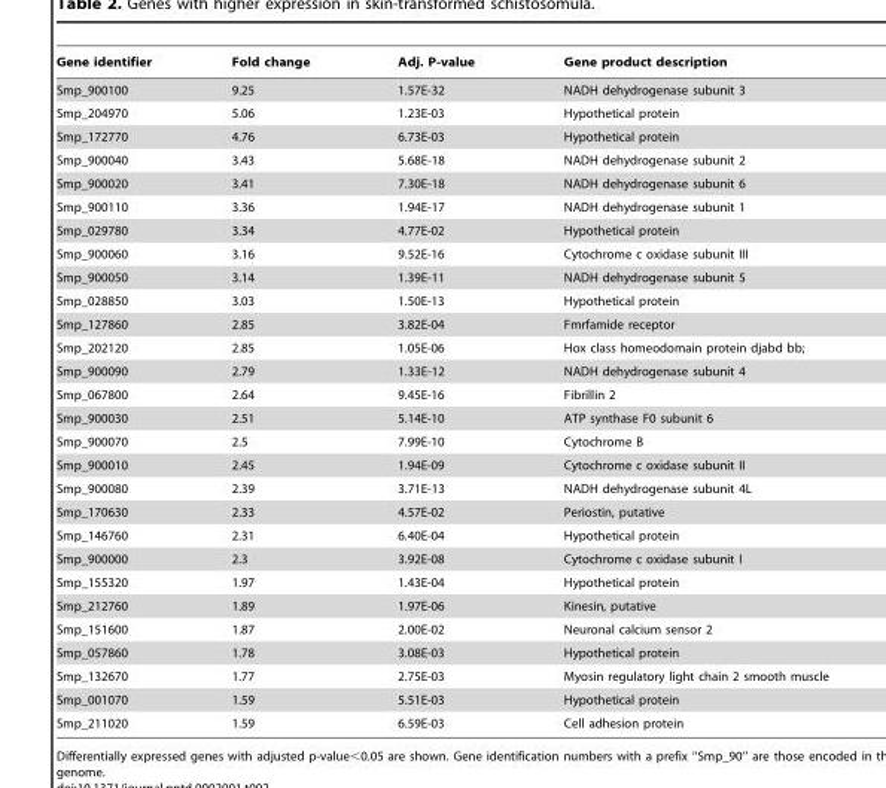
<table><thead><tr><td>Gene identifier</td><td>Fold change</td><td>Adj. P-value</td><td>Gene product description</td></tr></thead><tbody><tr><td>Smp_900100</td><td>9.25</td><td>1.57E-32</td><td>NADH dehydrogenase subunit 3</td></tr><tr><td>Smp_204970</td><td>5.06</td><td>1.23E-03</td><td>Hypothetical protein</td></tr><tr><td>Smp_172770</td><td>4.76</td><td>6.73E-03</td><td>Hypothetical protein</td></tr><tr><td>Smp_900040</td><td>3.43</td><td>5.68E-18</td><td>NADH dehydrogenase subunit 2</td></tr><tr><td>Smp_900020</td><td>3.41</td><td>7.30E-18</td><td>NADH dehydrogenase subunit 6</td></tr><tr><td>Smp_900110</td><td>3.36</td><td>1.94E-17</td><td>NADH dehydrogenase subunit 1</td></tr><tr><td>Smp_029780</td><td>3.34</td><td>4.77E-02</td><td>Hypothetical protein</td></tr><tr><td>Smp_900060</td><td>3.16</td><td>9.52E-16</td><td>Cytochrome c oxidase subunit III</td></tr><tr><td>Smp_900050</td><td>3.14</td><td>1.39E-11</td><td>NADH dehydrogenase subunit 5</td></tr><tr><td>Smp_028850</td><td>3.03</td><td>1.50E-13</td><td>Hypothetical protein</td></tr><tr><td>Smp_127860</td><td>2.85</td><td>3.82E-04</td><td>Fmrfamide receptor</td></tr><tr><td>Smp_202120</td><td>2.85</td><td>1.05E-06</td><td>Hox class homeodomain protein djabd bb;</td></tr><tr><td>Smp_900090</td><td>2.79</td><td>1.33E-12</td><td>NADH dehydrogenase subunit 4</td></tr><tr><td>Smp_067800</td><td>2.64</td><td>9.45E-16</td><td>Fibrillin 2</td></tr><tr><td>Smp_900030</td><td>2.51</td><td>5.14E-10</td><td>ATP synthase F0 subunit 6</td></tr><tr><td>Smp_900070</td><td>2.5</td><td>7.99E-10</td><td>Cytochrome B</td></tr><tr><td>Smp_900010</td><td>2.45</td><td>1.94E-09</td><td>Cytochrome c oxidase subunit II</td></tr><tr><td>Smp_900080</td><td>2.39</td><td>3.71E-13</td><td>NADH dehydrogenase subunit 4L</td></tr><tr><td>Smp_170630</td><td>2.33</td><td>4.57E-02</td><td>Periostin, putative</td></tr><tr><td>Smp_146760</td><td>2.31</td><td>6.40E-04</td><td>Hypothetical protein</td></tr><tr><td>Smp_900000</td><td>2.3</td><td>3.92E-08</td><td>Cytochrome c oxidase subunit I</td></tr><tr><td>Smp_155320</td><td>1.97</td><td>1.43E-04</td><td>Hypothetical protein</td></tr><tr><td>Smp_212760</td><td>1.89</td><td>1.97E-06</td><td>Kinesin, putative</td></tr><tr><td>Smp_151600</td><td>1.87</td><td>2.00E-02</td><td>Neuronal calcium sensor 2</td></tr><tr><td>Smp_057860</td><td>1.78</td><td>3.08E-03</td><td>Hypothetical protein</td></tr><tr><td>Smp_132670</td><td>1.77</td><td>2.75E-03</td><td>Myosin regulatory light chain 2 smooth muscle</td></tr><tr><td>Smp_001070</td><td>1.59</td><td>5.51E-03</td><td>Hypothetical protein</td></tr><tr><td>Smp_211020</td><td>1.59</td><td>6.59E-03</td><td>Cell adhesion protein</td></tr></tbody></table>